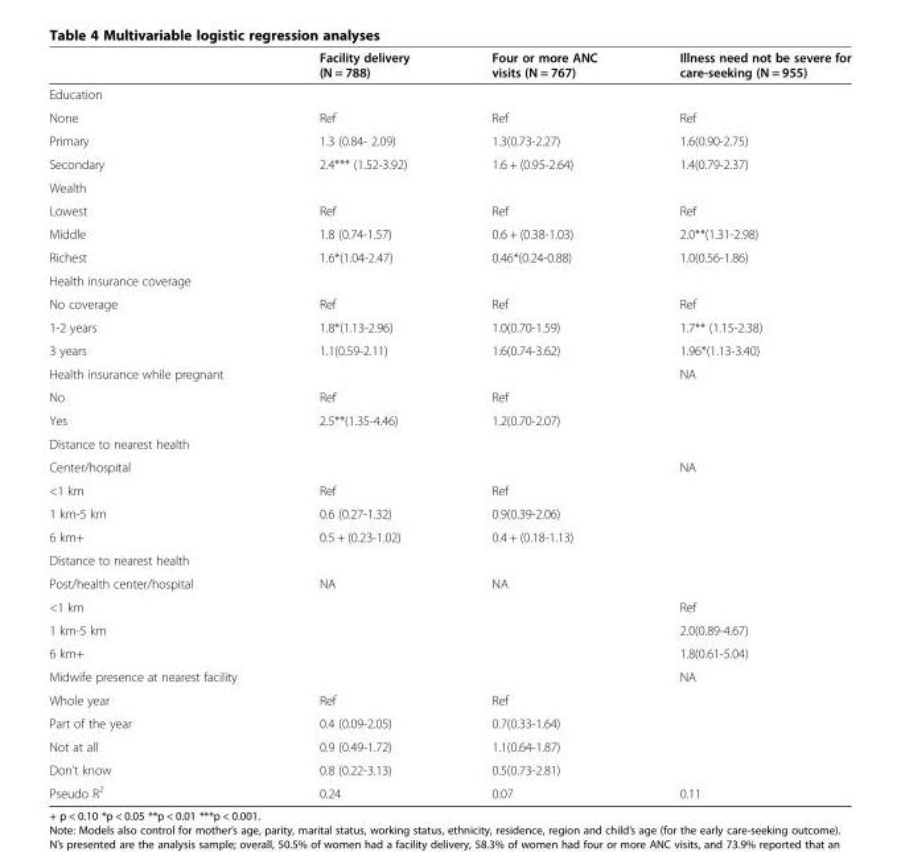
<table><thead><tr><td></td><td>Facility delivery (N = 788)</td><td>Four or more ANC visits (N = 767)</td><td>Illness need not be severe for care-seeking (N = 955)</td></tr></thead><tbody><tr><td colspan="4">Education</td></tr><tr><td>None</td><td>Ref</td><td>Ref</td><td>Ref</td></tr><tr><td>Primary</td><td>1.3 (0.84- 2.09)</td><td>1.3(0.73-2.27)</td><td>1.6(0.90-2.75)</td></tr><tr><td>Secondary</td><td>2.4*** (1.52-3.92)</td><td>1.6 + (0.95-2.64)</td><td>1.4(0.79-2.37)</td></tr><tr><td colspan="4">Wealth</td></tr><tr><td>Lowest</td><td>Ref</td><td>Ref</td><td>Ref</td></tr><tr><td>Middle</td><td>1.8 (0.74-1.57)</td><td>0.6 + (0.38-1.03)</td><td>2.0**(1.31-2.98)</td></tr><tr><td>Richest</td><td>1.6*(1.04-2.47)</td><td>0.46*(0.24-0.88)</td><td>1.0(0.56-1.86)</td></tr><tr><td colspan="4">Health insurance coverage</td></tr><tr><td>No coverage</td><td>Ref</td><td>Ref</td><td>Ref</td></tr><tr><td>1-2 years</td><td>1.8*(1.13-2.96)</td><td>1.0(0.70-1.59)</td><td>1.7** (1.15-2.38)</td></tr><tr><td>3 years</td><td>1.1(0.59-2.11)</td><td>1.6(0.74-3.62)</td><td>1.96*(1.13-3.40)</td></tr><tr><td>Health insurance while pregnant</td><td></td><td></td><td>NA</td></tr><tr><td>No</td><td>Ref</td><td>Ref</td><td></td></tr><tr><td>Yes</td><td>2.5**(1.35-4.46)</td><td>1.2(0.70-2.07)</td><td></td></tr><tr><td colspan="4">Distance to nearest health</td></tr><tr><td>Center/hospital</td><td></td><td></td><td>NA</td></tr><tr><td>&lt;1 km</td><td>Ref</td><td>Ref</td><td></td></tr><tr><td>1 km-5 km</td><td>0.6 (0.27-1.32)</td><td>0.9(0.39-2.06)</td><td></td></tr><tr><td>6 km+</td><td>0.5 + (0.23-1.02)</td><td>0.4 + (0.18-1.13)</td><td></td></tr><tr><td colspan="4">Distance to nearest health</td></tr><tr><td>Post/health center/hospital</td><td>NA</td><td>NA</td><td></td></tr><tr><td>&lt;1 km</td><td></td><td></td><td>Ref</td></tr><tr><td>1 km-5 km</td><td></td><td></td><td>2.0(0.89-4.67)</td></tr><tr><td>6 km+</td><td></td><td></td><td>1.8(0.61-5.04)</td></tr><tr><td>Midwife presence at nearest facility</td><td></td><td></td><td>NA</td></tr><tr><td>Whole year</td><td>Ref</td><td>Ref</td><td></td></tr><tr><td>Part of the year</td><td>0.4 (0.09-2.05)</td><td>0.7(0.33-1.64)</td><td></td></tr><tr><td>Not at all</td><td>0.9 (0.49-1.72)</td><td>1.1(0.64-1.87)</td><td></td></tr><tr><td>Don’t know</td><td>0.8 (0.22-3.13)</td><td>0.5(0.73-2.81)</td><td></td></tr><tr><td>Pseudo R<sup>2</sup></td><td>0.24</td><td>0.07</td><td>0.11</td></tr></tbody></table>